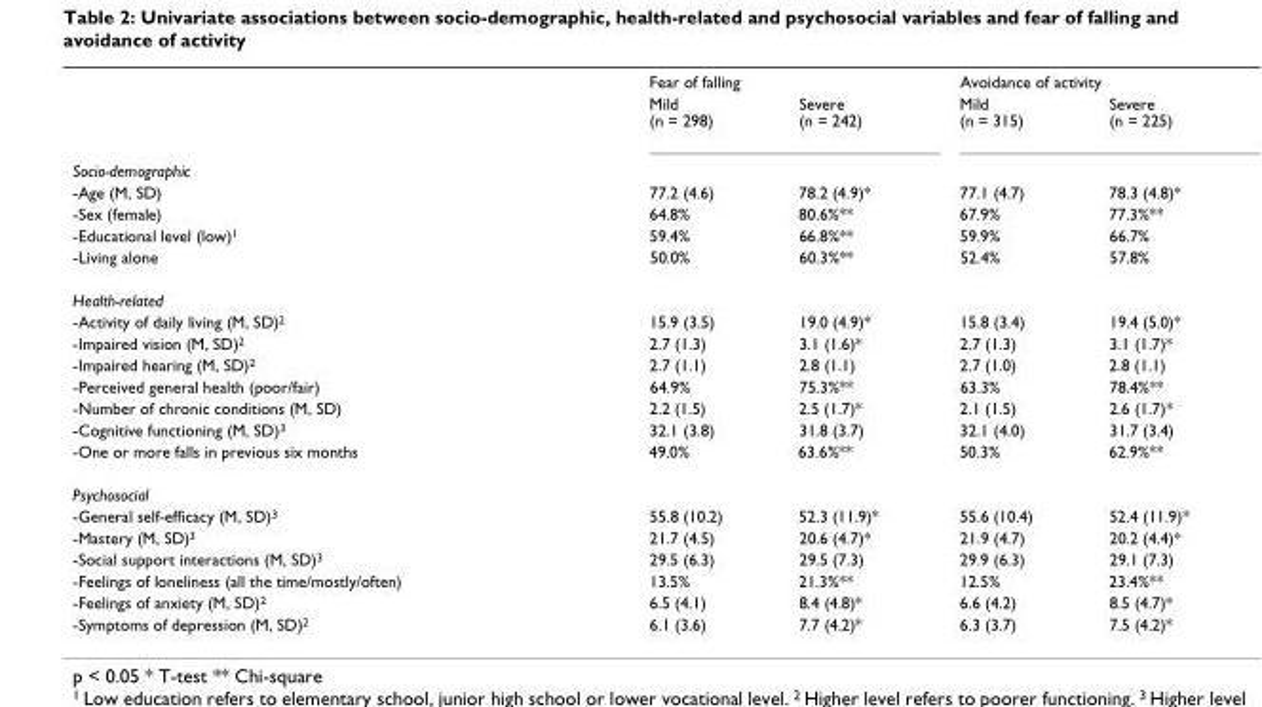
<table><thead><tr><td rowspan="2"></td><td colspan="2">Fear of falling</td><td colspan="2">Avoidance of activity</td></tr><tr><td>Mild (n = 298)</td><td>Severe (n = 242)</td><td>Mild (n = 315)</td><td>Severe (n = 225)</td></tr></thead><tbody><tr><td colspan="5">Socio-demographic</td></tr><tr><td>-Age (M, SD)</td><td>77.2 (4.6)</td><td>78.2 (4.9)*</td><td>77.1 (4.7)</td><td>78.3 (4.8)*</td></tr><tr><td>-Sex (female)</td><td>64.8%</td><td>80.6%**</td><td>67.9%</td><td>77.3%**</td></tr><tr><td>-Educational level (low)<sup>1</sup></td><td>59.4%</td><td>66.8%**</td><td>59.9%</td><td>66.7%</td></tr><tr><td>-Living alone</td><td>50.0%</td><td>60.3%**</td><td>52.4%</td><td>57.8%</td></tr><tr><td colspan="5">Health-related</td></tr><tr><td>-Activity of daily living (M, SD)<sup>2</sup></td><td>15.9 (3.5)</td><td>19.0 (4.9)*</td><td>15.8 (3.4)</td><td>19.4 (5.0)*</td></tr><tr><td>-Impaired vision (M, SD)<sup>2</sup></td><td>2.7 (1.3)</td><td>3.1 (1.6)*</td><td>2.7 (1.3)</td><td>3.1 (1.7)*</td></tr><tr><td>-Impaired hearing (M, SD)<sup>2</sup></td><td>2.7 (1.1)</td><td>2.8 (1.1)</td><td>2.7 (1.0)</td><td>2.8 (1.1)</td></tr><tr><td>-Perceived general health (poor/fair)</td><td>64.9%</td><td>75.3%**</td><td>63.3%</td><td>78.4%**</td></tr><tr><td>-Number of chronic conditions (M, SD)</td><td>2.2 (1.5)</td><td>2.5 (1.7)*</td><td>2.1 (1.5)</td><td>2.6 (1.7)*</td></tr><tr><td>-Cognitive functioning (M, SD)<sup>3</sup></td><td>32.1 (3.8)</td><td>31.8 (3.7)</td><td>32.1 (4.0)</td><td>31.7 (3.4)</td></tr><tr><td>-One or more falls in previous six months</td><td>49.0%</td><td>63.6%**</td><td>50.3%</td><td>62.9%**</td></tr><tr><td colspan="5">Psychosocial</td></tr><tr><td>-General self-efficacy (M, SD)<sup>3</sup></td><td>55.8 (10.2)</td><td>52.3 (11.9)*</td><td>55.6 (10.4)</td><td>52.4 (11.9)*</td></tr><tr><td>-Mastery (M, SD)<sup>3</sup></td><td>21.7 (4.5)</td><td>20.6 (4.7)*</td><td>21.9 (4.7)</td><td>20.2 (4.4)*</td></tr><tr><td>-Social support interactions (M, SD)<sup>3</sup></td><td>29.5 (6.3)</td><td>29.5 (7.3)</td><td>29.9 (6.3)</td><td>29.1 (7.3)</td></tr><tr><td>-Feelings of loneliness (all the time/mostly/often)</td><td>13.5%</td><td>21.3%**</td><td>12.5%</td><td>23.4%**</td></tr><tr><td>-Feelings of anxiety (M, SD)<sup>2</sup></td><td>6.5 (4.1)</td><td>8.4 (4.8)*</td><td>6.6 (4.2)</td><td>8.5 (4.7)*</td></tr><tr><td>-Symptoms of depression (M, SD)<sup>2</sup></td><td>6.1 (3.6)</td><td>7.7 (4.2)*</td><td>6.3 (3.7)</td><td>7.5 (4.2)*</td></tr></tbody></table>